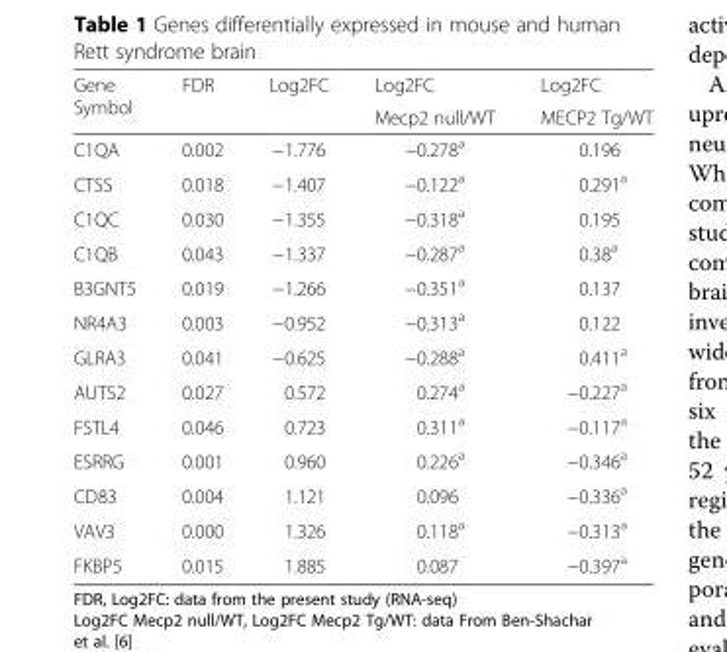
<table><thead><tr><td rowspan="2">Gene Symbol</td><td rowspan="2">FDR</td><td rowspan="2">Log2FC</td><td rowspan="2">Log2FC Mecp2 null/WT</td><td rowspan="2">Log2FC MECP2 Tg/WT</td></tr><tr></tr></thead><tbody><tr><td>C1QA</td><td>0.002</td><td>−1.776</td><td>−0.278<sup>a</sup></td><td>0.196</td></tr><tr><td>CTSS</td><td>0.018</td><td>−1.407</td><td>−0.122<sup>a</sup></td><td>0.291<sup>a</sup></td></tr><tr><td>C1QC</td><td>0.030</td><td>−1.355</td><td>−0.318<sup>a</sup></td><td>0.195</td></tr><tr><td>C1QB</td><td>0.043</td><td>−1.337</td><td>−0.287<sup>a</sup></td><td>0.38<sup>a</sup></td></tr><tr><td>B3GNT5</td><td>0.019</td><td>−1.266</td><td>−0.351<sup>a</sup></td><td>0.137</td></tr><tr><td>NR4A3</td><td>0.003</td><td>−0.952</td><td>−0.313<sup>a</sup></td><td>0.122</td></tr><tr><td>GLRA3</td><td>0.041</td><td>−0.625</td><td>−0.288<sup>a</sup></td><td>0.411<sup>a</sup></td></tr><tr><td>AUTS2</td><td>0.027</td><td>0.572</td><td>0.274<sup>a</sup></td><td>−0.227<sup>a</sup></td></tr><tr><td>FSTL4</td><td>0.046</td><td>0.723</td><td>0.311<sup>a</sup></td><td>−0.117<sup>a</sup></td></tr><tr><td>ESRRG</td><td>0.001</td><td>0.960</td><td>0.226<sup>a</sup></td><td>−0.346<sup>a</sup></td></tr><tr><td>CD83</td><td>0.004</td><td>1.121</td><td>0.096</td><td>−0.336<sup>a</sup></td></tr><tr><td>VAV3</td><td>0.000</td><td>1.326</td><td>0.118<sup>a</sup></td><td>−0.313<sup>a</sup></td></tr><tr><td>FKBP5</td><td>0.015</td><td>1.885</td><td>0.087</td><td>−0.397<sup>a</sup></td></tr></tbody></table>